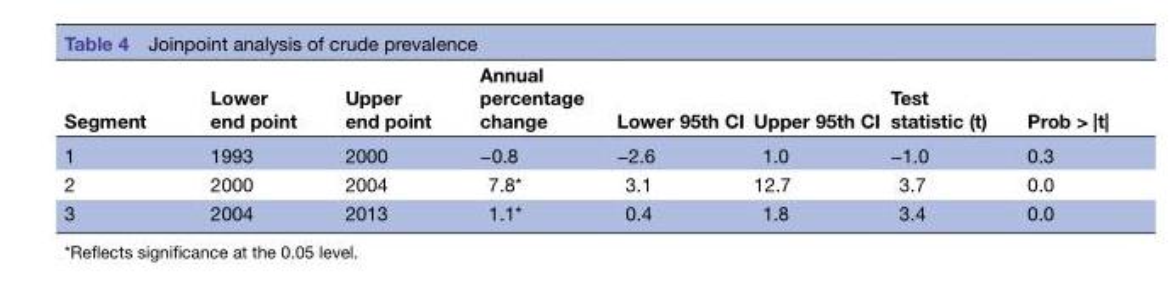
<table><thead><tr><td>Segment</td><td>Lower end point</td><td>Upper end point</td><td>Annual percentage change</td><td>Lower 95th CI</td><td>Upper 95th CI</td><td>Test statistic (t)</td><td>Prob &gt; |t|</td></tr></thead><tbody><tr><td>1</td><td>1993</td><td>2000</td><td>−0.8</td><td>−2.6</td><td>1.0</td><td>−1.0</td><td>0.3</td></tr><tr><td>2</td><td>2000</td><td>2004</td><td>7.8*</td><td>3.1</td><td>12.7</td><td>3.7</td><td>0.0</td></tr><tr><td>3</td><td>2004</td><td>2013</td><td>1.1*</td><td>0.4</td><td>1.8</td><td>3.4</td><td>0.0</td></tr></tbody></table>